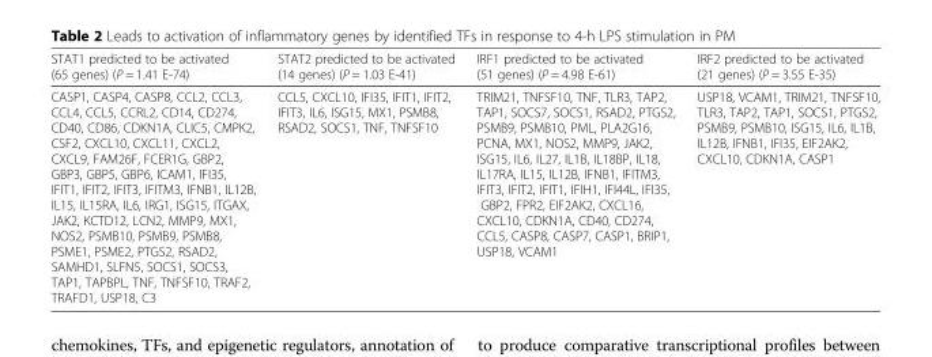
<table><thead><tr><td>STAT1 predicted to be activated (65 genes) (P = 1.41 E-74)</td><td>STAT2 predicted to be activated (14 genes) (P = 1.03 E-41)</td><td>IRF1 predicted to be activated (51 genes) (P = 4.98 E-61)</td><td>IRF2 predicted to be activated (21 genes) (P = 3.55 E-35)</td></tr></thead><tbody><tr><td>CASP1, CASP4, CASP8, CCL2, CCL3, CCL4, CCL5, CCRL2, CD14, CD274, CD40, CD86, CDKN1A, CLIC5, CMPK2, CSF2, CXCL10, CXCL11, CXCL2, CXCL9, FAM26F, FCER1G, GBP2, GBP3, GBP5, GBP6, ICAM1, IFI35, IFIT1, IFIT2, IFIT3, IFITM3, IFNB1, IL12B, IL15, IL15RA, IL6, IRG1, ISG15, ITGAX, JAK2, KCTD12, LCN2, MMP9, MX1, NOS2, PSMB10, PSMB9, PSMB8, PSME1, PSME2, PTGS2, RSAD2, SAMHD1, SLFN5, SOCS1, SOCS3, TAP1, TAPBPL, TNF, TNFSF10, TRAF2, TRAFD1, USP18, C3</td><td>CCL5, CXCL10, IFI35, IFIT1, IFIT2, IFIT3, IL6, ISG15, MX1, PSMB8, RSAD2, SOCS1, TNF, TNFSF10</td><td>TRIM21, TNFSF10, TNF, TLR3, TAP2, TAP1, SOCS7, SOCS1, RSAD2, PTGS2, PSMB9, PSMB10, PML, PLA2G16, PCNA, MX1, NOS2, MMP9, JAK2, ISG15, IL6, IL27, IL1B, IL18BP, IL18, IL17RA, IL15, IL12B, IFNB1, IFITM3, IFIT3, IFIT2, IFIT1, IFIH1, IFI44L, IFI35, GBP2, FPR2, EIF2AK2, CXCL16, CXCL10, CDKN1A, CD40, CD274, CCL5, CASP8, CASP7, CASP1, BRIP1, USP18, VCAM1</td><td>USP18, VCAM1, TRIM21, TNFSF10, TLR3, TAP2, TAP1, SOCS1, PTGS2, PSMB9, PSMB10, ISG15, IL6, IL1B, IL12B, IFNB1, IFI35, EIF2AK2, CXCL10, CDKN1A, CASP1</td></tr></tbody></table>